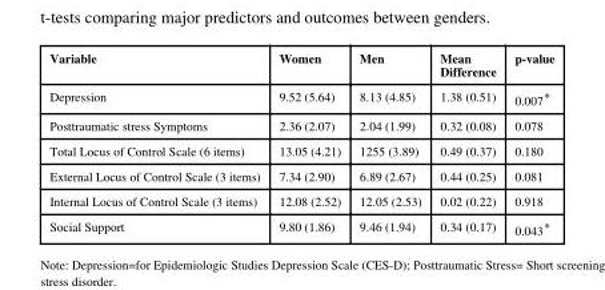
<table><thead><tr><td>Variable</td><td>Women</td><td>Men</td><td>Mean Difference</td><td>p-value</td></tr></thead><tbody><tr><td>Depression</td><td>9.52 (5.64)</td><td>8.13 (4.85)</td><td>1.38 (0.51)</td><td>0.007*</td></tr><tr><td>Posttraumatic stress Symptoms</td><td>2.36 (2.07)</td><td>2.04 (1.99)</td><td>0.32 (0.08)</td><td>0.078</td></tr><tr><td>Total Locus of Control Scale (6 items)</td><td>13.05 (4.21)</td><td>1255 (3.89)</td><td>0.49 (0.37)</td><td>0.180</td></tr><tr><td>External Locus of Control Scale (3 items)</td><td>7.34 (2.90)</td><td>6.89 (2.67)</td><td>0.44 (0.25)</td><td>0.081</td></tr><tr><td>Internal Locus of Control Scale (3 items)</td><td>12.08 (2.52)</td><td>12.05 (2.53)</td><td>0.02 (0.22)</td><td>0.918</td></tr><tr><td>Social Support</td><td>9.80 (1.86)</td><td>9.46 (1.94)</td><td>0.34 (0.17)</td><td>0.043*</td></tr></tbody></table>